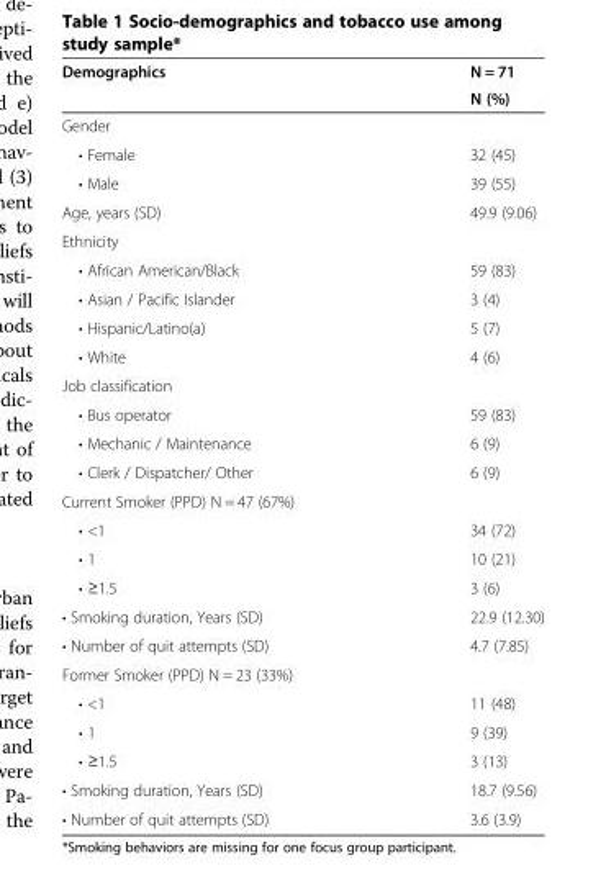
<table><thead><tr><td rowspan="2">Demographics</td><td rowspan="2">N = 71 N (%)</td></tr><tr></tr></thead><tbody><tr><td colspan="2">Gender</td></tr><tr><td>• Female</td><td>32 (45)</td></tr><tr><td>• Male</td><td>39 (55)</td></tr><tr><td>Age, years (SD)</td><td>49.9 (9.06)</td></tr><tr><td colspan="2">Ethnicity</td></tr><tr><td>• African American/Black</td><td>59 (83)</td></tr><tr><td>• Asian / Pacific Islander</td><td>3 (4)</td></tr><tr><td>• Hispanic/Latino(a)</td><td>5 (7)</td></tr><tr><td>• White</td><td>4 (6)</td></tr><tr><td colspan="2">Job classification</td></tr><tr><td>• Bus operator</td><td>59 (83)</td></tr><tr><td>• Mechanic / Maintenance</td><td>6 (9)</td></tr><tr><td>• Clerk / Dispatcher/ Other</td><td>6 (9)</td></tr><tr><td colspan="2">Current Smoker (PPD) N = 47 (67%)</td></tr><tr><td>• &lt;1</td><td>34 (72)</td></tr><tr><td>• 1</td><td>10 (21)</td></tr><tr><td>• ≥1.5</td><td>3 (6)</td></tr><tr><td>• Smoking duration, Years (SD)</td><td>22.9 (12.30)</td></tr><tr><td>• Number of quit attempts (SD)</td><td>4.7 (7.85)</td></tr><tr><td colspan="2">Former Smoker (PPD) N = 23 (33%)</td></tr><tr><td>• &lt;1</td><td>11 (48)</td></tr><tr><td>• 1</td><td>9 (39)</td></tr><tr><td>• ≥1.5</td><td>3 (13)</td></tr><tr><td>• Smoking duration, Years (SD)</td><td>18.7 (9.56)</td></tr><tr><td>• Number of quit attempts (SD)</td><td>3.6 (3.9)</td></tr></tbody></table>